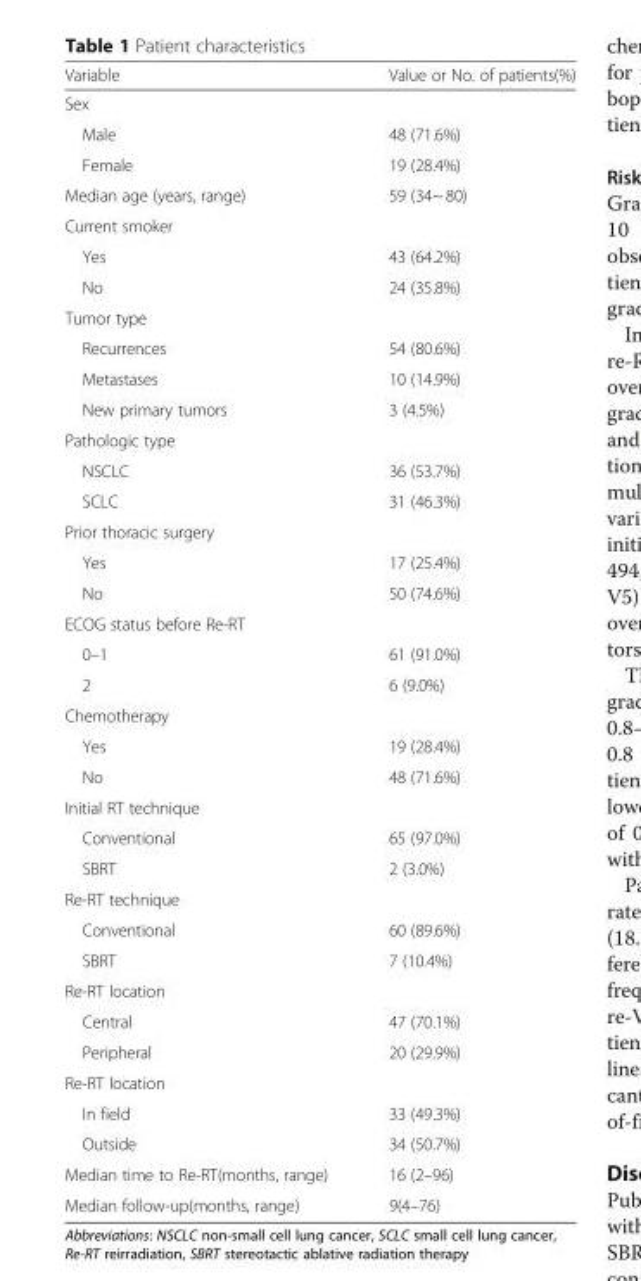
<table><thead><tr><td>Variable</td><td>Value or No. of patients(%)</td></tr></thead><tbody><tr><td colspan="2">Sex</td></tr><tr><td>Male</td><td>48 (71.6%)</td></tr><tr><td>Female</td><td>19 (28.4%)</td></tr><tr><td>Median age (years, range)</td><td>59 (34~ 80)</td></tr><tr><td colspan="2">Current smoker</td></tr><tr><td>Yes</td><td>43 (64.2%)</td></tr><tr><td>No</td><td>24 (35.8%)</td></tr><tr><td colspan="2">Tumor type</td></tr><tr><td>Recurrences</td><td>54 (80.6%)</td></tr><tr><td>Metastases</td><td>10 (14.9%)</td></tr><tr><td>New primary tumors</td><td>3 (4.5%)</td></tr><tr><td colspan="2">Pathologic type</td></tr><tr><td>NSCLC</td><td>36 (53.7%)</td></tr><tr><td>SCLC</td><td>31 (46.3%)</td></tr><tr><td colspan="2">Prior thoracic surgery</td></tr><tr><td>Yes</td><td>17 (25.4%)</td></tr><tr><td>No</td><td>50 (74.6%)</td></tr><tr><td colspan="2">ECOG status before Re-RT</td></tr><tr><td>0–1</td><td>61 (91.0%)</td></tr><tr><td>2</td><td>6 (9.0%)</td></tr><tr><td colspan="2">Chemotherapy</td></tr><tr><td>Yes</td><td>19 (28.4%)</td></tr><tr><td>No</td><td>48 (71.6%)</td></tr><tr><td colspan="2">Initial RT technique</td></tr><tr><td>Conventional</td><td>65 (97.0%)</td></tr><tr><td>SBRT</td><td>2 (3.0%)</td></tr><tr><td colspan="2">Re-RT technique</td></tr><tr><td>Conventional</td><td>60 (89.6%)</td></tr><tr><td>SBRT</td><td>7 (10.4%)</td></tr><tr><td colspan="2">Re-RT location</td></tr><tr><td>Central</td><td>47 (70.1%)</td></tr><tr><td>Peripheral</td><td>20 (29.9%)</td></tr><tr><td colspan="2">Re-RT location</td></tr><tr><td>In field</td><td>33 (49.3%)</td></tr><tr><td>Outside</td><td>34 (50.7%)</td></tr><tr><td>Median time to Re-RT(months, range)</td><td>16 (2–96)</td></tr><tr><td>Median follow-up(months, range)</td><td>9(4–76)</td></tr></tbody></table>